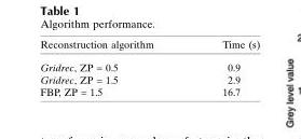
<table><thead><tr><td>Reconstruction algorithm</td><td>Time (s)</td></tr></thead><tbody><tr><td>Gridrec, ZP = 0.5</td><td>0.9</td></tr><tr><td>Gridrec, ZP = 1.5</td><td>2.9</td></tr><tr><td>FBP, ZP = 1.5</td><td>16.7</td></tr></tbody></table>